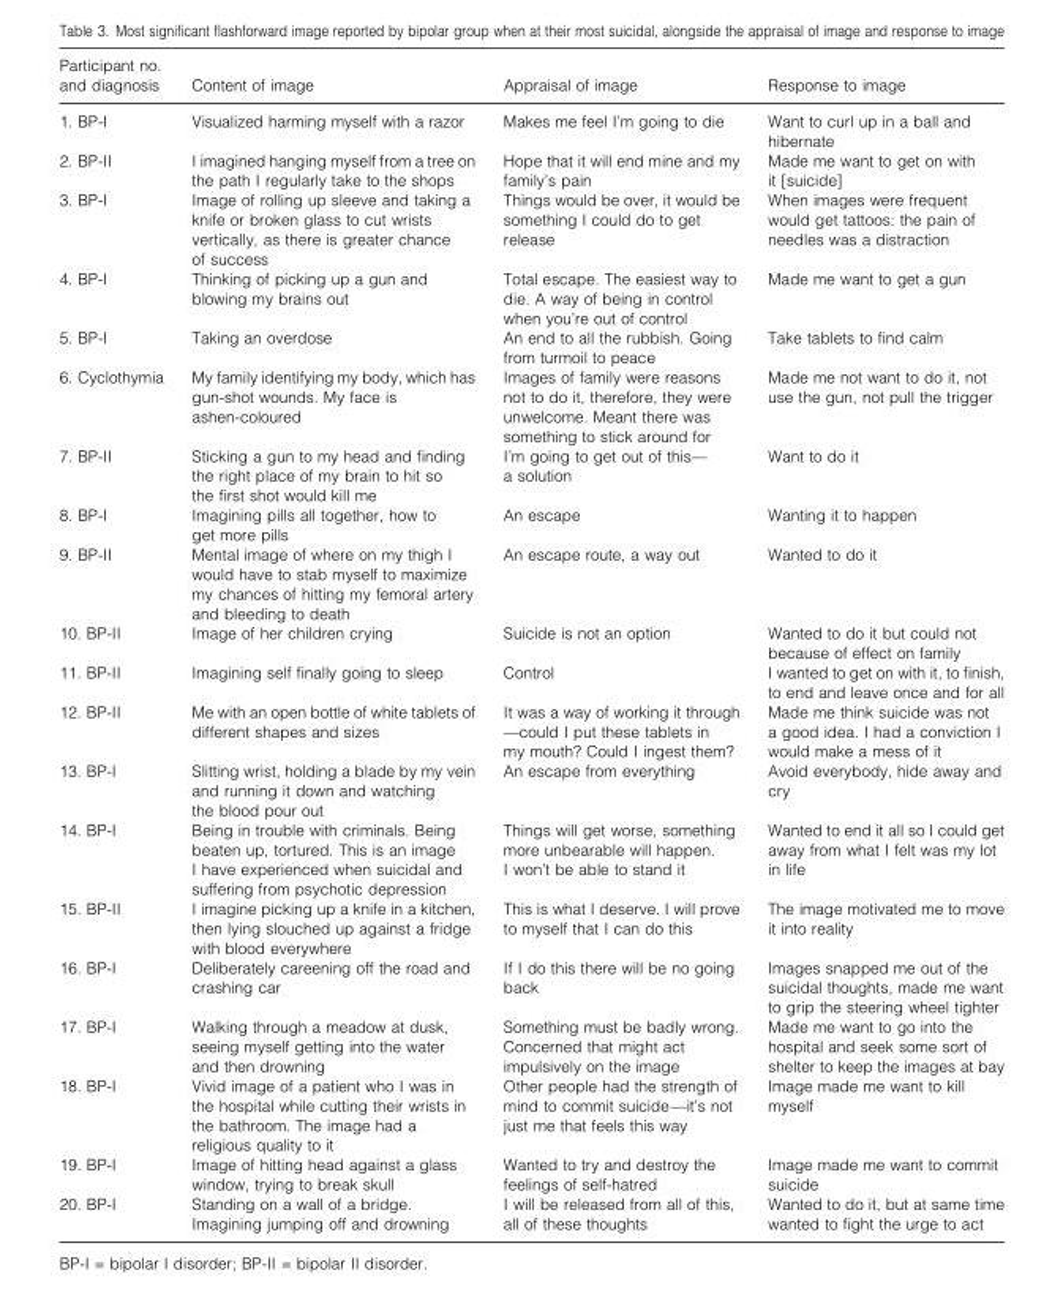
<table><thead><tr><td>Participant no. and diagnosis</td><td>Content of image</td><td>Appraisal of image</td><td>Response to image</td></tr></thead><tbody><tr><td>1. BP-I</td><td>Visualized harming myself with a razor</td><td>Makes me feel I’m going to die</td><td>Want to curl up in a ball and hibernate</td></tr><tr><td>2. BP-II</td><td>I imagined hanging myself from a tree on the path I regularly take to the shops</td><td>Hope that it will end mine and my family’s pain</td><td>Made me want to get on with it [suicide]</td></tr><tr><td>3. BP-I</td><td>Image of rolling up sleeve and taking a knife or broken glass to cut wrists vertically, as there is greater chance of success</td><td>Things would be over, it would be something I could do to get release</td><td>When images were frequent would get tattoos: the pain of needles was a distraction</td></tr><tr><td>4. BP-I</td><td>Thinking of picking up a gun and blowing my brains out</td><td>Total escape. The easiest way to die. A way of being in control when you’re out of control</td><td>Made me want to get a gun</td></tr><tr><td>5. BP-I</td><td>Taking an overdose</td><td>An end to all the rubbish. Going from turmoil to peace</td><td>Take tablets to find calm</td></tr><tr><td>6. Cyclothymia</td><td>My family identifying my body, which has gun-shot wounds. My face is ashen-coloured</td><td>Images of family were reasons not to do it, therefore, they were unwelcome. Meant there was something to stick around for</td><td>Made me not want to do it, not use the gun, not pull the trigger</td></tr><tr><td>7. BP-II</td><td>Sticking a gun to my head and finding the right place of my brain to hit so the first shot would kill me</td><td>I’m going to get out of this— a solution</td><td>Want to do it</td></tr><tr><td>8. BP-I</td><td>Imagining pills all together, how to get more pills</td><td>An escape</td><td>Wanting it to happen</td></tr><tr><td>9. BP-II</td><td>Mental image of where on my thigh I would have to stab myself to maximize my chances of hitting my femoral artery and bleeding to death</td><td>An escape route, a way out</td><td>Wanted to do it</td></tr><tr><td>10. BP-II</td><td>Image of her children crying</td><td>Suicide is not an option</td><td>Wanted to do it but could not because of effect on family</td></tr><tr><td>11. BP-II</td><td>Imagining self finally going to sleep</td><td>Control</td><td>I wanted to get on with it, to finish, to end and leave once and for all</td></tr><tr><td>12. BP-II</td><td>Me with an open bottle of white tablets of different shapes and sizes</td><td>It was a way of working it through —could I put these tablets in my mouth? Could I ingest them?</td><td>Made me think suicide was not a good idea. I had a conviction I would make a mess of it</td></tr><tr><td>13. BP-I</td><td>Slitting wrist, holding a blade by my vein and running it down and watching the blood pour out</td><td>An escape from everything</td><td>Avoid everybody, hide away and cry</td></tr><tr><td>14. BP-I</td><td>Being in trouble with criminals. Being beaten up, tortured. This is an image I have experienced when suicidal and suffering from psychotic depression</td><td>Things will get worse, something more unbearable will happen. I won’t be able to stand it</td><td>Wanted to end it all so I could get away from what I felt was my lot in life</td></tr><tr><td>15. BP-II</td><td>I imagine picking up a knife in a kitchen, then lying slouched up against a fridge with blood everywhere</td><td>This is what I deserve. I will prove to myself that I can do this</td><td>The image motivated me to move it into reality</td></tr><tr><td>16. BP-I</td><td>Deliberately careening off the road and crashing car</td><td>If I do this there will be no going back</td><td>Images snapped me out of the suicidal thoughts, made me want to grip the steering wheel tighter</td></tr><tr><td>17. BP-I</td><td>Walking through a meadow at dusk, seeing myself getting into the water and then drowning</td><td>Something must be badly wrong. Concerned that might act impulsively on the image</td><td>Made me want to go into the hospital and seek some sort of shelter to keep the images at bay</td></tr><tr><td>18. BP-I</td><td>Vivid image of a patient who I was in the hospital while cutting their wrists in the bathroom. The image had a religious quality to it</td><td>Other people had the strength of mind to commit suicide—it’s not just me that feels this way</td><td>Image made me want to kill myself</td></tr><tr><td>19. BP-I</td><td>Image of hitting head against a glass window, trying to break skull</td><td>Wanted to try and destroy the feelings of self-hatred</td><td>Image made me want to commit suicide</td></tr><tr><td>20. BP-I</td><td>Standing on a wall of a bridge. Imagining jumping off and drowning</td><td>I will be released from all of this, all of these thoughts</td><td>Wanted to do it, but at same time wanted to fight the urge to act</td></tr></tbody></table>